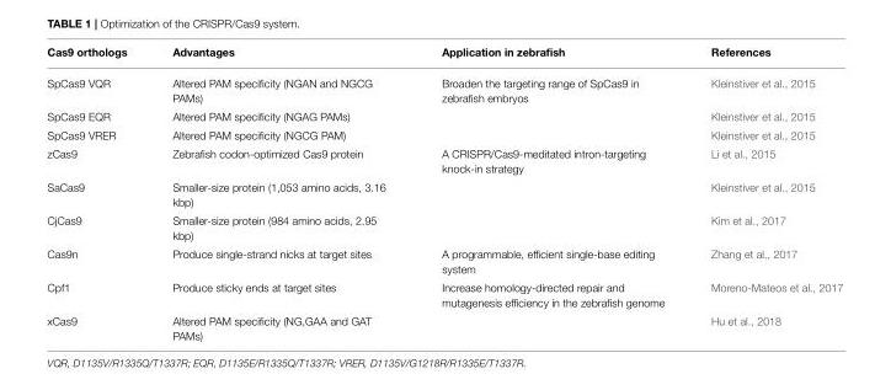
<table><thead><tr><td>Cas9 orthologs</td><td>Advantages</td><td>Application in zebrafish</td><td>References</td></tr></thead><tbody><tr><td>SpCas9 VQR</td><td>Altered PAM specificity (NGAN and NGCG PAMs)</td><td>Broaden the targeting range of SpCas9 in zebrafish embryos</td><td>Kleinstiver et al., 2015</td></tr><tr><td>SpCas9 EQR</td><td>Altered PAM specificity (NGAG PAMs)</td><td></td><td>Kleinstiver et al., 2015</td></tr><tr><td>SpCas9 VRER</td><td>Altered PAM specificity (NGCG PAM)</td><td></td><td>Kleinstiver et al., 2015</td></tr><tr><td>zCas9</td><td>Zebrafish codon-optimized Cas9 protein</td><td>A CRISPR/Cas9-meditated intron-targeting knock-in strategy</td><td>Li et al., 2015</td></tr><tr><td>SaCas9</td><td>Smaller-size protein (1,053 amino acids, 3.16 kbp)</td><td></td><td>Kleinstiver et al., 2015</td></tr><tr><td>CjCas9</td><td>Smaller-size protein (984 amino acids, 2.95 kbp)</td><td></td><td>Kim et al., 2017</td></tr><tr><td>Cas9n</td><td>Produce single-strand nicks at target sites</td><td>A programmable, efficient single-base editing system</td><td>Zhang et al., 2017</td></tr><tr><td>Cpf1</td><td>Produce sticky ends at target sites</td><td>Increase homology-directed repair and mutagenesis efficiency in the zebrafish genome</td><td>Moreno-Mateos et al., 2017</td></tr><tr><td>xCas9</td><td>Altered PAM specificity (NG,GAA and GAT PAMs)</td><td></td><td>Hu et al., 2018</td></tr></tbody></table>